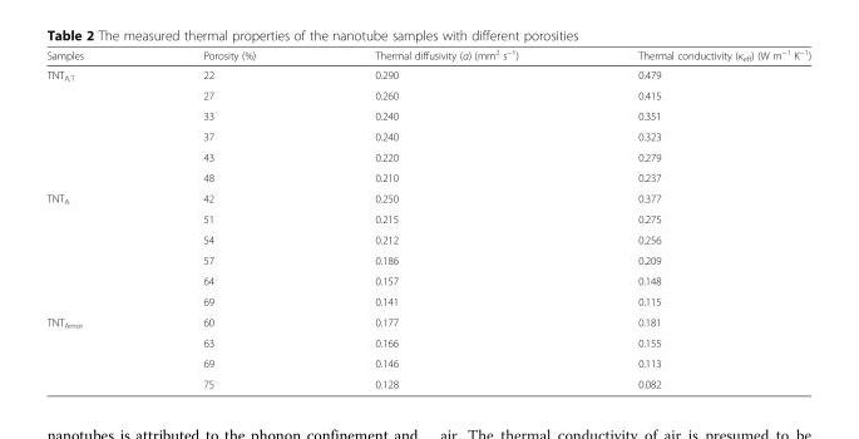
<table><thead><tr><td>Samples</td><td>Porosity (%)</td><td>Thermal diffusivity (α) (mm<sup>2</sup> s<sup>−1</sup>)</td><td>Thermal conductivity (κ<sub>eff</sub>) (W m<sup>−1</sup> K<sup>−1</sup>)</td></tr></thead><tbody><tr><td rowspan="6">TNT<sub>A,T</sub></td><td>22</td><td>0.290</td><td>0.479</td></tr><tr><td>27</td><td>0.260</td><td>0.415</td></tr><tr><td>33</td><td>0.240</td><td>0.351</td></tr><tr><td>37</td><td>0.240</td><td>0.323</td></tr><tr><td>43</td><td>0.220</td><td>0.279</td></tr><tr><td>48</td><td>0.210</td><td>0.237</td></tr><tr><td rowspan="6">TNT<sub>A</sub></td><td>42</td><td>0.250</td><td>0.377</td></tr><tr><td>51</td><td>0.215</td><td>0.275</td></tr><tr><td>54</td><td>0.212</td><td>0.256</td></tr><tr><td>57</td><td>0.186</td><td>0.209</td></tr><tr><td>64</td><td>0.157</td><td>0.148</td></tr><tr><td>69</td><td>0.141</td><td>0.115</td></tr><tr><td rowspan="4">TNT<sub>Amor</sub></td><td>60</td><td>0.177</td><td>0.181</td></tr><tr><td>63</td><td>0.166</td><td>0.155</td></tr><tr><td>69</td><td>0.146</td><td>0.113</td></tr><tr><td>75</td><td>0.128</td><td>0.082</td></tr></tbody></table>